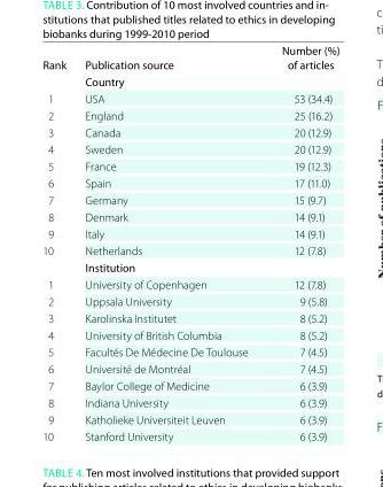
<table><thead><tr><td>Rank</td><td>Publication source</td><td>Number (%) of articles</td></tr></thead><tbody><tr><td></td><td>Country</td><td></td></tr><tr><td>1</td><td>USA</td><td>53 (34.4)</td></tr><tr><td>2</td><td>England</td><td>25 (16.2)</td></tr><tr><td>3</td><td>Canada</td><td>20 (12.9)</td></tr><tr><td>4</td><td>Sweden</td><td>20 (12.9)</td></tr><tr><td>5</td><td>France</td><td>19 (12.3)</td></tr><tr><td>6</td><td>Spain</td><td>17 (11.0)</td></tr><tr><td>7</td><td>Germany</td><td>15 (9.7)</td></tr><tr><td>8</td><td>Denmark</td><td>14 (9.1)</td></tr><tr><td>9</td><td>Italy</td><td>14 (9.1)</td></tr><tr><td rowspan="2">10</td><td>Netherlands</td><td>12 (7.8)</td></tr><tr><td>Institution</td><td></td></tr><tr><td>1</td><td>University of Copenhagen</td><td>12 (7.8)</td></tr><tr><td>2</td><td>Uppsala University</td><td>9 (5.8)</td></tr><tr><td>3</td><td>Karolinska Institutet</td><td>8 (5.2)</td></tr><tr><td>4</td><td>University of British Columbia</td><td>8 (5.2)</td></tr><tr><td>5</td><td>Facultés De Médecine De Toulouse</td><td>7 (4.5)</td></tr><tr><td>6</td><td>Université de Montréal</td><td>7 (4.5)</td></tr><tr><td>7</td><td>Baylor College of Medicine</td><td>6 (3.9)</td></tr><tr><td>8</td><td>Indiana University</td><td>6 (3.9)</td></tr><tr><td>9</td><td>Katholieke Universiteit Leuven</td><td>6 (3.9)</td></tr><tr><td>10</td><td>Stanford University</td><td>6 (3.9)</td></tr></tbody></table>